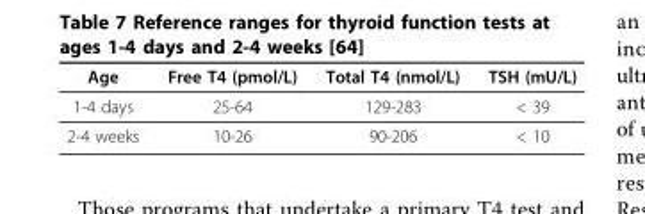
<table><thead><tr><td>Age</td><td>Free T4 (pmol/L)</td><td>Total T4 (nmol/L)</td><td>TSH (mU/L)</td></tr></thead><tbody><tr><td>1-4 days</td><td>25-64</td><td>129-283</td><td>&lt; 39</td></tr><tr><td>2-4 weeks</td><td>10-26</td><td>90-206</td><td>&lt; 10</td></tr></tbody></table>